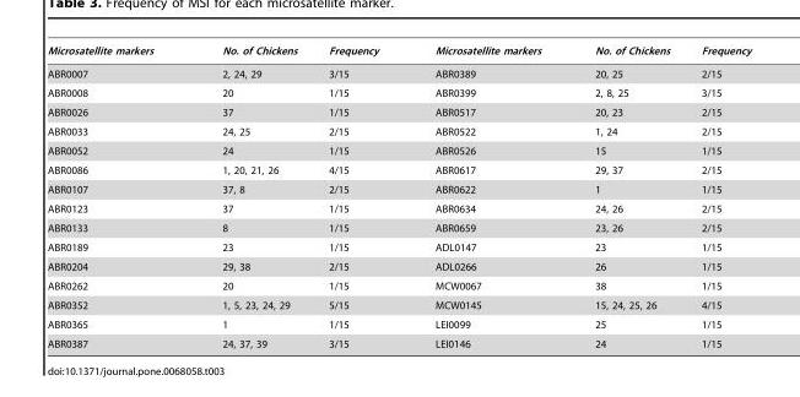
<table><thead><tr><td>Microsatellite markers</td><td>No. of Chickens</td><td>Frequency</td><td>Microsatellite markers</td><td>No. of Chickens</td><td>Frequency</td></tr></thead><tbody><tr><td>ABR0007</td><td>2, 24, 29</td><td>3/15</td><td>ABR0389</td><td>20, 25</td><td>2/15</td></tr><tr><td>ABR0008</td><td>20</td><td>1/15</td><td>ABR0399</td><td>2, 8, 25</td><td>3/15</td></tr><tr><td>ABR0026</td><td>37</td><td>1/15</td><td>ABR0517</td><td>20, 23</td><td>2/15</td></tr><tr><td>ABR0033</td><td>24, 25</td><td>2/15</td><td>ABR0522</td><td>1, 24</td><td>2/15</td></tr><tr><td>ABR0052</td><td>24</td><td>1/15</td><td>ABR0526</td><td>15</td><td>1/15</td></tr><tr><td>ABR0086</td><td>1, 20, 21, 26</td><td>4/15</td><td>ABR0617</td><td>29, 37</td><td>2/15</td></tr><tr><td>ABR0107</td><td>37, 8</td><td>2/15</td><td>ABR0622</td><td>1</td><td>1/15</td></tr><tr><td>ABR0123</td><td>37</td><td>1/15</td><td>ABR0634</td><td>24, 26</td><td>2/15</td></tr><tr><td>ABR0133</td><td>8</td><td>1/15</td><td>ABR0659</td><td>23, 26</td><td>2/15</td></tr><tr><td>ABR0189</td><td>23</td><td>1/15</td><td>ADL0147</td><td>23</td><td>1/15</td></tr><tr><td>ABR0204</td><td>29, 38</td><td>2/15</td><td>ADL0266</td><td>26</td><td>1/15</td></tr><tr><td>ABR0262</td><td>20</td><td>1/15</td><td>MCW0067</td><td>38</td><td>1/15</td></tr><tr><td>ABR0352</td><td>1, 5, 23, 24, 29</td><td>5/15</td><td>MCW0145</td><td>15, 24, 25, 26</td><td>4/15</td></tr><tr><td>ABR0365</td><td>1</td><td>1/15</td><td>LEI0099</td><td>25</td><td>1/15</td></tr><tr><td>ABR0387</td><td>24, 37, 39</td><td>3/15</td><td>LEI0146</td><td>24</td><td>1/15</td></tr></tbody></table>